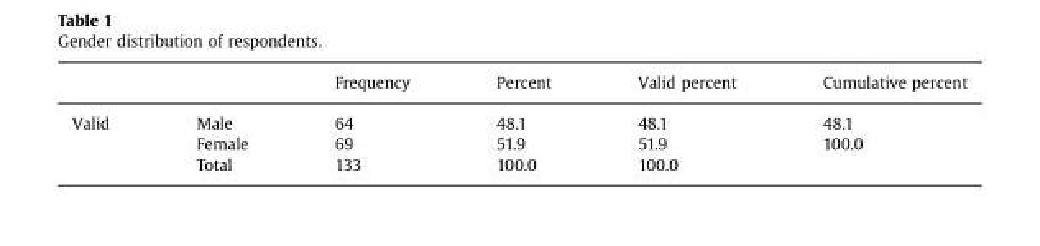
<table><thead><tr><td></td><td></td><td>Frequency</td><td>Percent</td><td>Valid percent</td><td>Cumulative percent</td></tr></thead><tbody><tr><td rowspan="3">Valid</td><td>Male</td><td>64</td><td>48.1</td><td>48.1</td><td>48.1</td></tr><tr><td>Female</td><td>69</td><td>51.9</td><td>51.9</td><td>100.0</td></tr><tr><td>Total</td><td>133</td><td>100.0</td><td>100.0</td><td></td></tr></tbody></table>